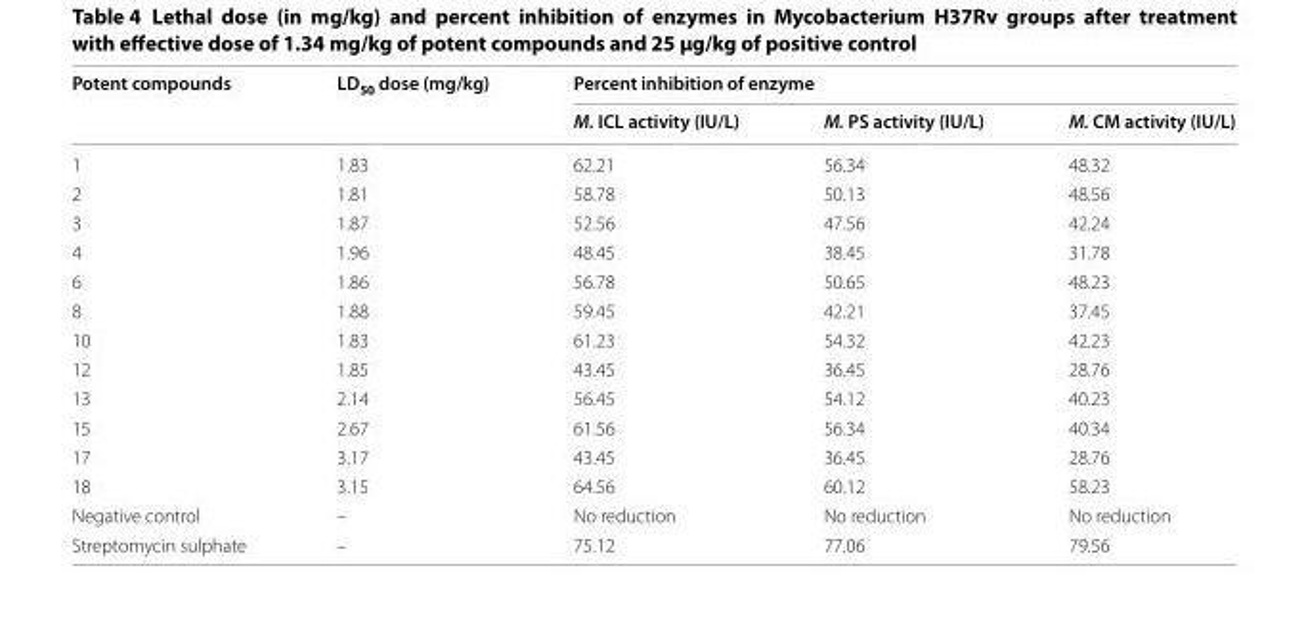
<table><thead><tr><td rowspan="2">Potent compounds</td><td rowspan="2">LD<sub>50</sub> dose (mg/kg)</td><td colspan="3">Percent inhibition of enzyme</td></tr><tr><td>M. ICL activity (IU/L)</td><td>M. PS activity (IU/L)</td><td>M. CM activity (IU/L)</td></tr></thead><tbody><tr><td>1</td><td>1.83</td><td>62.21</td><td>56.34</td><td>48.32</td></tr><tr><td>2</td><td>1.81</td><td>58.78</td><td>50.13</td><td>48.56</td></tr><tr><td>3</td><td>1.87</td><td>52.56</td><td>47.56</td><td>42.24</td></tr><tr><td>4</td><td>1.96</td><td>48.45</td><td>38.45</td><td>31.78</td></tr><tr><td>6</td><td>1.86</td><td>56.78</td><td>50.65</td><td>48.23</td></tr><tr><td>8</td><td>1.88</td><td>59.45</td><td>42.21</td><td>37.45</td></tr><tr><td>10</td><td>1.83</td><td>61.23</td><td>54.32</td><td>42.23</td></tr><tr><td>12</td><td>1.85</td><td>43.45</td><td>36.45</td><td>28.76</td></tr><tr><td>13</td><td>2.14</td><td>56.45</td><td>54.12</td><td>40.23</td></tr><tr><td>15</td><td>2.67</td><td>61.56</td><td>56.34</td><td>40.34</td></tr><tr><td>17</td><td>3.17</td><td>43.45</td><td>36.45</td><td>28.76</td></tr><tr><td>18</td><td>3.15</td><td>64.56</td><td>60.12</td><td>58.23</td></tr><tr><td>Negative control</td><td>–</td><td>No reduction</td><td>No reduction</td><td>No reduction</td></tr><tr><td>Streptomycin sulphate</td><td>–</td><td>75.12</td><td>77.06</td><td>79.56</td></tr></tbody></table>